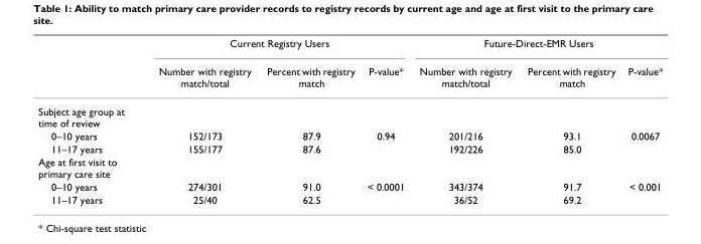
<table><thead><tr><td rowspan="2"></td><td colspan="3">Current Registry Users</td><td colspan="3">Future-Direct-EMR Users</td></tr><tr><td>Number with registry match/total</td><td>Percent with registry match</td><td>P-value*</td><td>Number with registry match/total</td><td>Percent with registry match</td><td>P-value*</td></tr></thead><tbody><tr><td colspan="7">Subject age group at time of review</td></tr><tr><td>0–10 years</td><td>152/173</td><td>87.9</td><td>0.94</td><td>201/216</td><td>93.1</td><td>0.0067</td></tr><tr><td>11–17 years</td><td>155/177</td><td>87.6</td><td></td><td>192/226</td><td>85.0</td><td></td></tr><tr><td colspan="7">Age at first visit to primary care site</td></tr><tr><td>0–10 years</td><td>274/301</td><td>91.0</td><td>&lt; 0.0001</td><td>343/374</td><td>91.7</td><td>&lt; 0.001</td></tr><tr><td>11–17 years</td><td>25/40</td><td>62.5</td><td></td><td>36/52</td><td>69.2</td><td></td></tr></tbody></table>